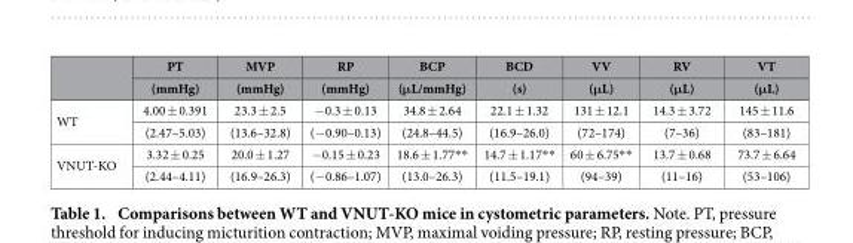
<table><thead><tr><td rowspan="2"></td><td rowspan="2">PT (mmHg)</td><td rowspan="2">MVP (mmHg)</td><td rowspan="2">RP (mmHg)</td><td rowspan="2">BCP (μL/mmHg)</td><td rowspan="2">BCD (s)</td><td rowspan="2">VV (μL)</td><td rowspan="2">RV (μL)</td><td rowspan="2">VT (μL)</td></tr><tr></tr></thead><tbody><tr><td rowspan="2">WT</td><td>4.00 ± 0.391</td><td>23.3 ± 2.5</td><td>− 0.3 ± 0.13</td><td>34.8 ± 2.64</td><td>22.1 ± 1.32</td><td>131 ± 12.1</td><td>14.3 ± 3.72</td><td>145 ± 11.6</td></tr><tr><td>(2.47–5.03)</td><td>(13.6–32.8)</td><td>(− 0.90–0.13)</td><td>(24.8–44.5)</td><td>(16.9–26.0)</td><td>(72–174)</td><td>(7–36)</td><td>(83–181)</td></tr><tr><td rowspan="2">VNUT-KO</td><td>3.32 ± 0.25</td><td>20.0 ± 1.27</td><td>− 0.15 ± 0.23</td><td>18.6 ± 1.77* *</td><td>14.7 ± 1.17* *</td><td>60 ± 6.75* *</td><td>13.7 ± 0.68</td><td>73.7 ± 6.64</td></tr><tr><td>(2.44–4.11)</td><td>(16.9–26.3)</td><td>(− 0.86–1.07)</td><td>(13.0–26.3)</td><td>(11.5–19.1)</td><td>(94–39)</td><td>(11–16)</td><td>(53–106)</td></tr></tbody></table>